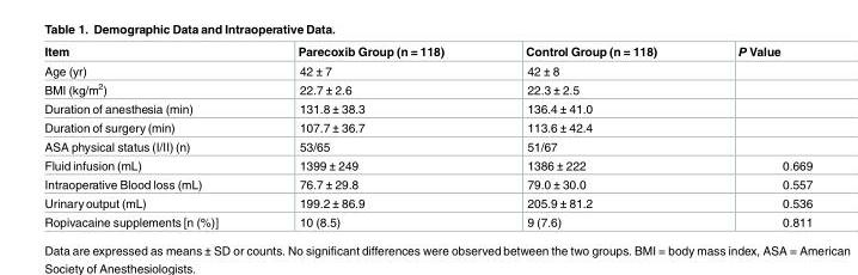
<table><thead><tr><td>Item</td><td>Parecoxib Group (n = 118)</td><td>Control Group (n = 118)</td><td>P Value</td></tr></thead><tbody><tr><td>Age (yr)</td><td>42 ± 7</td><td>42 ± 8</td><td></td></tr><tr><td>BMI (kg/m<sup>2</sup>)</td><td>22.7 ± 2.6</td><td>22.3 ± 2.5</td><td></td></tr><tr><td>Duration of anesthesia (min)</td><td>131.8 ± 38.3</td><td>136.4 ± 41.0</td><td></td></tr><tr><td>Duration of surgery (min)</td><td>107.7 ± 36.7</td><td>113.6 ± 42.4</td><td></td></tr><tr><td>ASA physical status (I/II) (n)</td><td>53/65</td><td>51/67</td><td></td></tr><tr><td>Fluid infusion (mL)</td><td>1399 ± 249</td><td>1386 ± 222</td><td>0.669</td></tr><tr><td>Intraoperative Blood loss (mL)</td><td>76.7 ± 29.8</td><td>79.0 ± 30.0</td><td>0.557</td></tr><tr><td>Urinaryoutput (mL)</td><td>199.2 ± 86.9</td><td>205.9 ± 81.2</td><td>0.536</td></tr><tr><td>Ropivacaine supplements [n (%)]</td><td>10 (8.5)</td><td>9 (7.6)</td><td>0.811</td></tr></tbody></table>